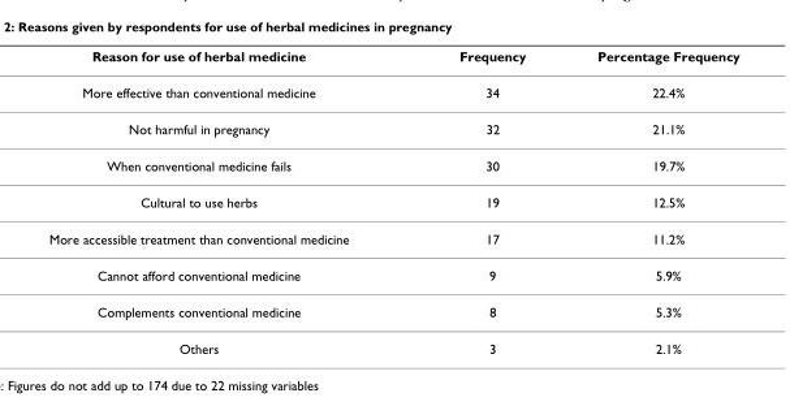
<table><thead><tr><td>Reason for use of herbal medicine</td><td>Frequency</td><td>Percentage Frequency</td></tr></thead><tbody><tr><td>More effective than conventional medicine</td><td>34</td><td>22.4%</td></tr><tr><td>Not harmful in pregnancy</td><td>32</td><td>21.1%</td></tr><tr><td>When conventional medicine fails</td><td>30</td><td>19.7%</td></tr><tr><td>Cultural to use herbs</td><td>19</td><td>12.5%</td></tr><tr><td>More accessible treatment than conventional medicine</td><td>17</td><td>11.2%</td></tr><tr><td>Cannot afford conventional medicine</td><td>9</td><td>5.9%</td></tr><tr><td>Complements conventional medicine</td><td>8</td><td>5.3%</td></tr><tr><td>Others</td><td>3</td><td>2.1%</td></tr></tbody></table>